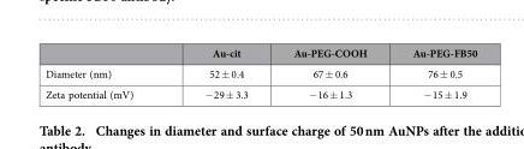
<table><thead><tr><td></td><td>Au-cit</td><td>Au-PEG-COOH</td><td>Au-PEG-FB50</td></tr></thead><tbody><tr><td>Diameter (nm)</td><td>52 ± 0.4</td><td>67 ± 0.6</td><td>76 ± 0.5</td></tr><tr><td>Zeta potential (mV)</td><td>− 29 ± 3.3</td><td>− 16 ± 1.3</td><td>− 15 ± 1.9</td></tr></tbody></table>